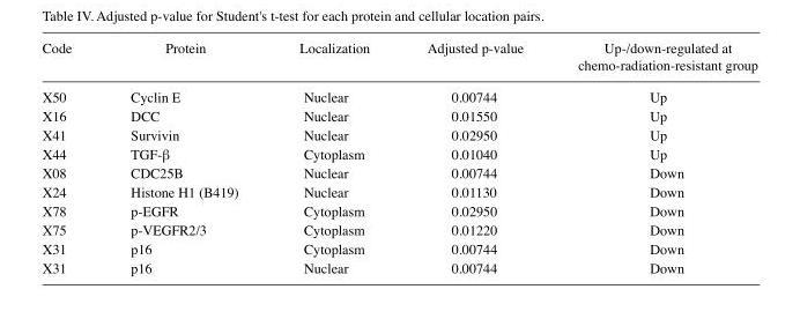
<table><thead><tr><td>Code</td><td>Protein</td><td>Localization</td><td>Adjusted p-value</td><td>Up-/down-regulated at chemo-radiation-resistant group</td></tr></thead><tbody><tr><td>X50</td><td>Cyclin E</td><td>Nuclear</td><td>0.00744</td><td>Up</td></tr><tr><td>X16</td><td>DCC</td><td>Nuclear</td><td>0.01550</td><td>Up</td></tr><tr><td>X41</td><td>Survivin</td><td>Nuclear</td><td>0.02950</td><td>Up</td></tr><tr><td>X44</td><td>TGF-β</td><td>Cytoplasm</td><td>0.01040</td><td>Up</td></tr><tr><td>X08</td><td>CDC25B</td><td>Nuclear</td><td>0.00744</td><td>Down</td></tr><tr><td>X24</td><td>Histone H1 (B419)</td><td>Nuclear</td><td>0.01130</td><td>Down</td></tr><tr><td>X78</td><td>p-EGFR</td><td>Cytoplasm</td><td>0.02950</td><td>Down</td></tr><tr><td>X75</td><td>p-VEGFR2/3</td><td>Cytoplasm</td><td>0.01220</td><td>Down</td></tr><tr><td>X31</td><td>p16</td><td>Cytoplasm</td><td>0.00744</td><td>Down</td></tr><tr><td>X31</td><td>p16</td><td>Nuclear</td><td>0.00744</td><td>Down</td></tr></tbody></table>